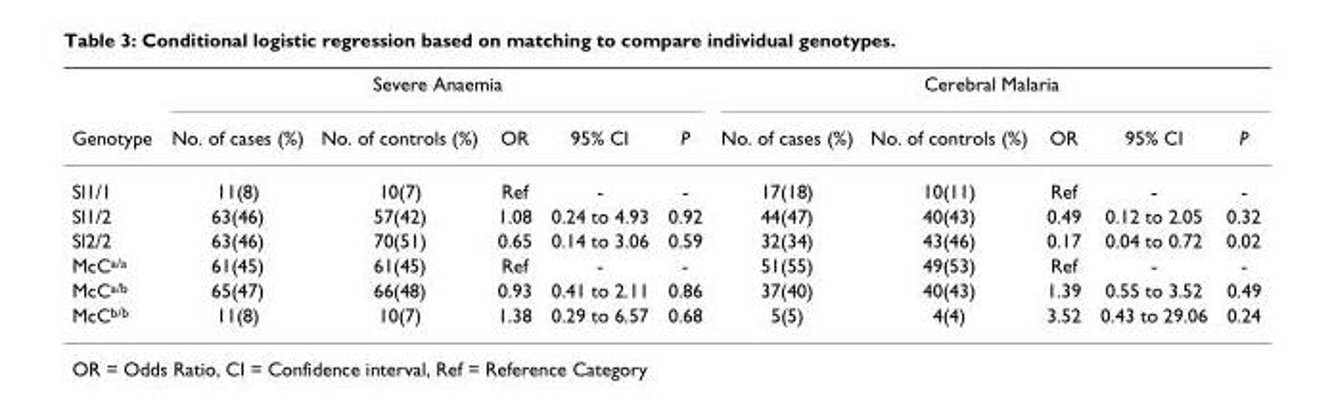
<table><thead><tr><td rowspan="2">Genotype</td><td colspan="5">Severe Anaemia</td><td colspan="5">Cerebral Malaria</td></tr><tr><td>No. of cases (%)</td><td>No. of controls (%)</td><td>OR</td><td>95% CI</td><td>P</td><td>No. of cases (%)</td><td>No. of controls (%)</td><td>OR</td><td>95% CI</td><td>P</td></tr></thead><tbody><tr><td>Sl1/1</td><td>11(8)</td><td>10(7)</td><td>Ref</td><td>-</td><td>-</td><td>17(18)</td><td>10(11)</td><td>Ref</td><td>-</td><td>-</td></tr><tr><td>Sl1/2</td><td>63(46)</td><td>57(42)</td><td>1.08</td><td>0.24 to 4.93</td><td>0.92</td><td>44(47)</td><td>40(43)</td><td>0.49</td><td>0.12 to 2.05</td><td>0.32</td></tr><tr><td>Sl2/2</td><td>63(46)</td><td>70(51)</td><td>0.65</td><td>0.14 to 3.06</td><td>0.59</td><td>32(34)</td><td>43(46)</td><td>0.17</td><td>0.04 to 0.72</td><td>0.02</td></tr><tr><td>McC<sup>a/a</sup></td><td>61(45)</td><td>61(45)</td><td>Ref</td><td>-</td><td>-</td><td>51(55)</td><td>49(53)</td><td>Ref</td><td>-</td><td>-</td></tr><tr><td>McC<sup>a/b</sup></td><td>65(47)</td><td>66(48)</td><td>0.93</td><td>0.41 to 2.11</td><td>0.86</td><td>37(40)</td><td>40(43)</td><td>1.39</td><td>0.55 to 3.52</td><td>0.49</td></tr><tr><td>McC<sup>b/b</sup></td><td>11(8)</td><td>10(7)</td><td>1.38</td><td>0.29 to 6.57</td><td>0.68</td><td>5(5)</td><td>4(4)</td><td>3.52</td><td>0.43 to 29.06</td><td>0.24</td></tr></tbody></table>